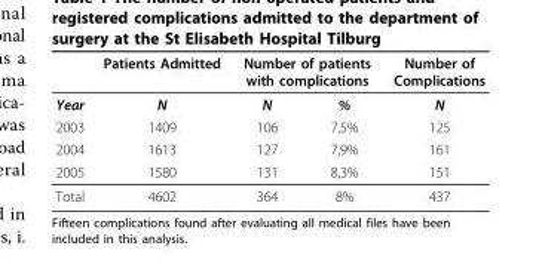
<table><thead><tr><td rowspan="2">Year</td><td rowspan="2">Patients Admitted N</td><td colspan="2">Number of patients with complications</td><td rowspan="2">Number of Complications N</td></tr><tr><td>N</td><td>%</td></tr></thead><tbody><tr><td>2003</td><td>1409</td><td>106</td><td>7,5%</td><td>125</td></tr><tr><td>2004</td><td>1613</td><td>127</td><td>7,9%</td><td>161</td></tr><tr><td>2005</td><td>1580</td><td>131</td><td>8,3%</td><td>151</td></tr><tr><td>Total</td><td>4602</td><td>364</td><td>8%</td><td>437</td></tr></tbody></table>